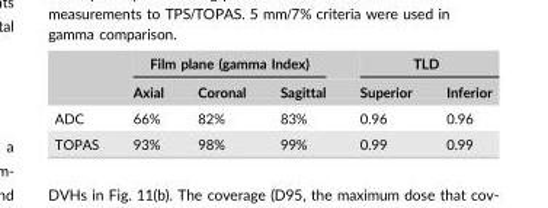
<table><thead><tr><td rowspan="2"></td><td colspan="3">Film plane (gamma Index)</td><td colspan="2">TLD</td></tr><tr><td>Axial</td><td>Coronal</td><td>Sagittal</td><td>Superior</td><td>Inferior</td></tr></thead><tbody><tr><td>ADC</td><td>66%</td><td>82%</td><td>83%</td><td>0.96</td><td>0.96</td></tr><tr><td>TOPAS</td><td>93%</td><td>98%</td><td>99%</td><td>0.99</td><td>0.99</td></tr></tbody></table>